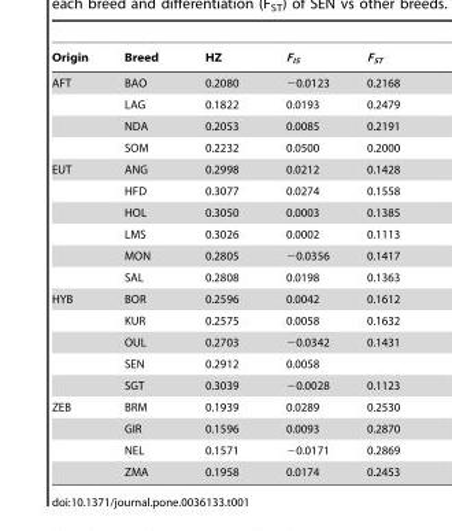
<table><thead><tr><td>Origin</td><td>Breed</td><td>HZ</td><td>F<sub>IS</sub></td><td>F<sub>ST</sub></td></tr></thead><tbody><tr><td rowspan="4">AFT</td><td>BAO</td><td>0.2080</td><td>−0.0123</td><td>0.2168</td></tr><tr><td>LAG</td><td>0.1822</td><td>0.0193</td><td>0.2479</td></tr><tr><td>NDA</td><td>0.2053</td><td>0.0085</td><td>0.2191</td></tr><tr><td>SOM</td><td>0.2232</td><td>0.0500</td><td>0.2000</td></tr><tr><td rowspan="6">EUT</td><td>ANG</td><td>0.2998</td><td>0.0212</td><td>0.1428</td></tr><tr><td>HFD</td><td>0.3077</td><td>0.0274</td><td>0.1558</td></tr><tr><td>HOL</td><td>0.3050</td><td>0.0003</td><td>0.1385</td></tr><tr><td>LMS</td><td>0.3026</td><td>0.0002</td><td>0.1113</td></tr><tr><td>MON</td><td>0.2805</td><td>−0.0356</td><td>0.1417</td></tr><tr><td>SAL</td><td>0.2808</td><td>0.0198</td><td>0.1363</td></tr><tr><td rowspan="5">HYB</td><td>BOR</td><td>0.2596</td><td>0.0042</td><td>0.1612</td></tr><tr><td>KUR</td><td>0.2575</td><td>0.0058</td><td>0.1632</td></tr><tr><td>OUL</td><td>0.2703</td><td>−0.0342</td><td>0.1431</td></tr><tr><td>SEN</td><td>0.2912</td><td>0.0058</td><td></td></tr><tr><td>SGT</td><td>0.3039</td><td>−0.0028</td><td>0.1123</td></tr><tr><td rowspan="4">ZEB</td><td>BRM</td><td>0.1939</td><td>0.0289</td><td>0.2530</td></tr><tr><td>GIR</td><td>0.1596</td><td>0.0093</td><td>0.2870</td></tr><tr><td>NEL</td><td>0.1571</td><td>−0.0171</td><td>0.2869</td></tr><tr><td>ZMA</td><td>0.1958</td><td>0.0174</td><td>0.2453</td></tr></tbody></table>